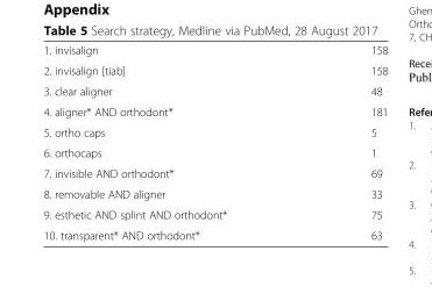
<table><tbody><tr><td>1. invisalign</td><td>158</td></tr><tr><td>2. invisalign [tiab]</td><td>158</td></tr><tr><td>3. clear aligner</td><td>48</td></tr><tr><td>4. aligner* AND orthodont*</td><td>181</td></tr><tr><td>5. ortho caps</td><td>5</td></tr><tr><td>6. orthocaps</td><td>1</td></tr><tr><td>7. invisible AND orthodont*</td><td>69</td></tr><tr><td>8. removable AND aligner</td><td>33</td></tr><tr><td>9. esthetic AND splint AND orthodont*</td><td>75</td></tr><tr><td>10. transparent* AND orthodont*</td><td>63</td></tr></tbody></table>